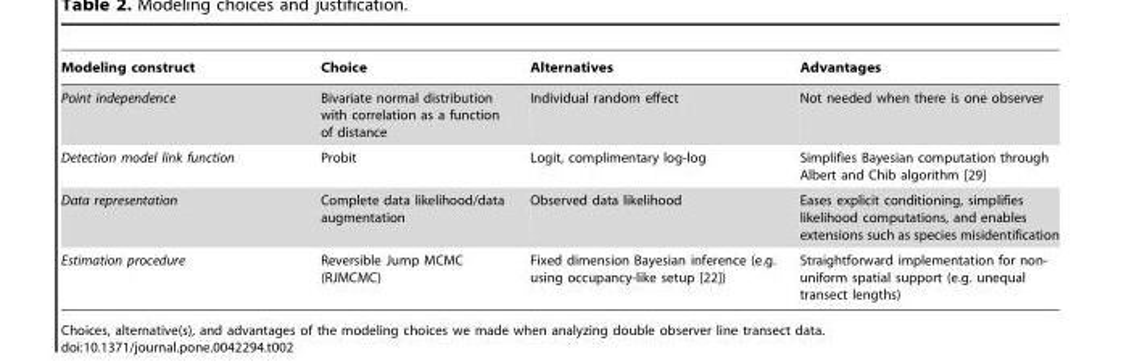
<table><thead><tr><td>Modeling construct</td><td>Choice</td><td>Alternatives</td><td>Advantages</td></tr></thead><tbody><tr><td>Point independence</td><td>Bivariate normal distribution with correlation as a function of distance</td><td>Individual random effect</td><td>Not needed when there is one observer</td></tr><tr><td>Detection model link function</td><td>Probit</td><td>Logit, complimentary log-log</td><td>Simplifies Bayesian computation through Albert and Chib algorithm [29]</td></tr><tr><td>Data representation</td><td>Complete data likelihood/data augmentation</td><td>Observed data likelihood</td><td>Eases explicit conditioning, simplifies likelihood computations, and enables extensions such as species misidentification</td></tr><tr><td>Estimation procedure</td><td>Reversible Jump MCMC (RJMCMC)</td><td>Fixed dimension Bayesian inference (e.g. using occupancy-like setup [22])</td><td>Straightforward implementation for non- uniform spatial support (e.g. unequal transect lengths)</td></tr></tbody></table>